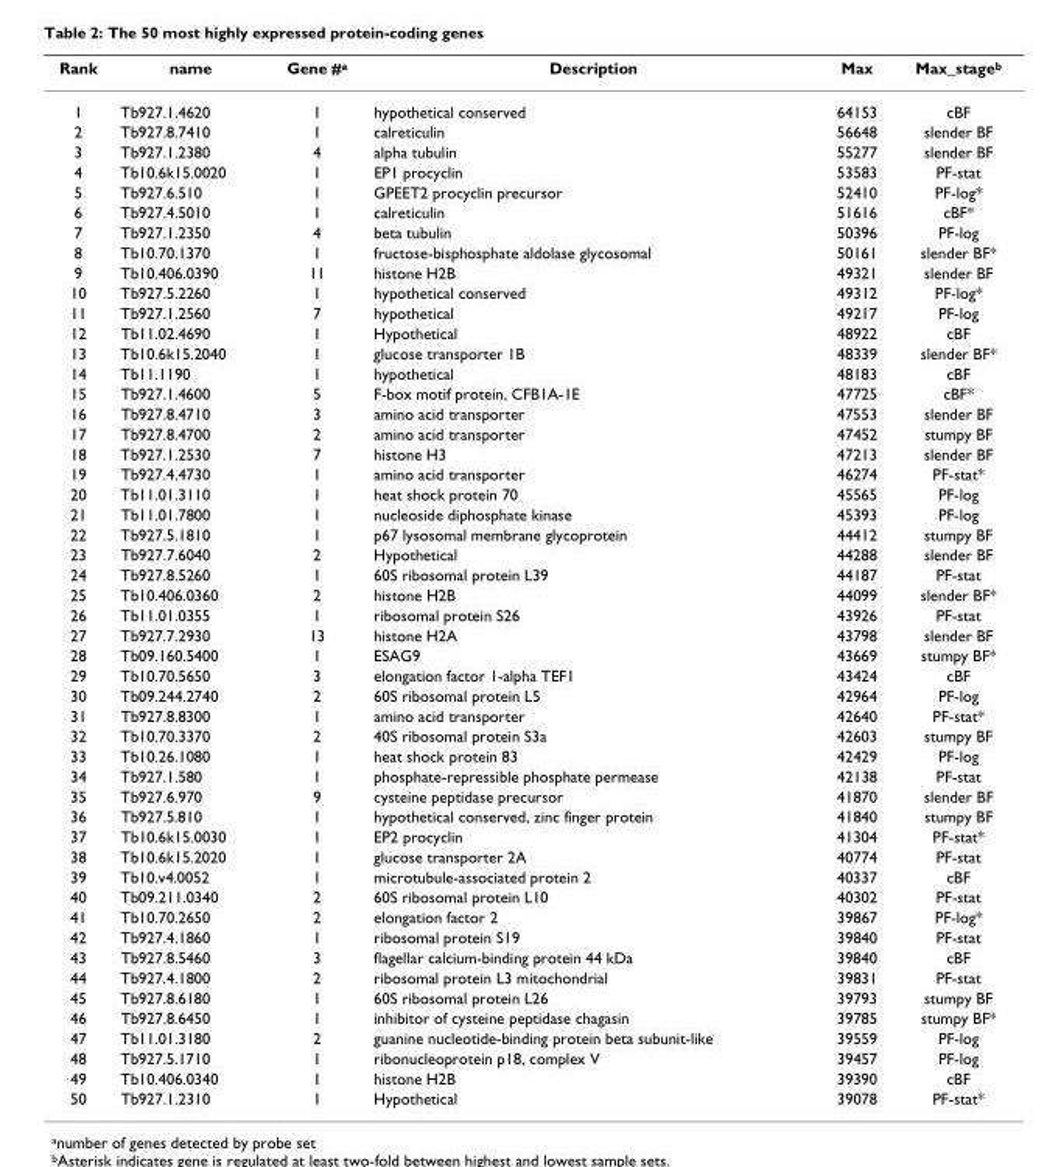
<table><thead><tr><td>Rank</td><td>name</td><td>Gene #<sup>a</sup></td><td>Description</td><td>Max</td><td>Max_stage<sup>b</sup></td></tr></thead><tbody><tr><td>1</td><td>Tb927.1.4620</td><td>1</td><td>hypothetical conserved</td><td>64153</td><td>cBF</td></tr><tr><td>2</td><td>Tb927.8.7410</td><td>1</td><td>calreticulin</td><td>56648</td><td>slender BF</td></tr><tr><td>3</td><td>Tb927.1.2380</td><td>4</td><td>alpha tubulin</td><td>55277</td><td>slender BF</td></tr><tr><td>4</td><td>Tb10.6k15.0020</td><td>1</td><td>EP1 procyclin</td><td>53583</td><td>PF-stat</td></tr><tr><td>5</td><td>Tb927.6.510</td><td>1</td><td>GPEET2 procyclin precursor</td><td>52410</td><td>PF-log*</td></tr><tr><td>6</td><td>Tb927.4.5010</td><td>1</td><td>calreticulin</td><td>51616</td><td>cBF*</td></tr><tr><td>7</td><td>Tb927.1.2350</td><td>4</td><td>beta tubulin</td><td>50396</td><td>PF-log</td></tr><tr><td>8</td><td>Tb10.70.1370</td><td>1</td><td>fructose-bisphosphate aldolase glycosomal</td><td>50161</td><td>slender BF*</td></tr><tr><td>9</td><td>Tb10.406.0390</td><td>11</td><td>histone H2B</td><td>49321</td><td>slender BF</td></tr><tr><td>10</td><td>Tb927.5.2260</td><td>1</td><td>hypothetical conserved</td><td>49312</td><td>PF-log*</td></tr><tr><td>11</td><td>Tb927.1.2560</td><td>7</td><td>hypothetical</td><td>49217</td><td>PF-log</td></tr><tr><td>12</td><td>Tb11.02.4690</td><td>1</td><td>Hypothetical</td><td>48922</td><td>cBF</td></tr><tr><td>13</td><td>Tb10.6k15.2040</td><td>1</td><td>glucose transporter 1B</td><td>48339</td><td>slender BF*</td></tr><tr><td>14</td><td>Tb11.1190</td><td>1</td><td>hypothetical</td><td>48183</td><td>cBF</td></tr><tr><td>15</td><td>Tb927.1.4600</td><td>5</td><td>F-box motif protein, CFB1A-1E</td><td>47725</td><td>cBF*</td></tr><tr><td>16</td><td>Tb927.8.4710</td><td>3</td><td>amino acid transporter</td><td>47553</td><td>slender BF</td></tr><tr><td>17</td><td>Tb927.8.4700</td><td>2</td><td>amino acid transporter</td><td>47452</td><td>stumpy BF</td></tr><tr><td>18</td><td>Tb927.1.2530</td><td>7</td><td>histone H3</td><td>47213</td><td>slender BF</td></tr><tr><td>19</td><td>Tb927.4.4730</td><td>1</td><td>amino acid transporter</td><td>46274</td><td>PF-stat*</td></tr><tr><td>20</td><td>Tb11.01.3110</td><td>1</td><td>heat shock protein 70</td><td>45565</td><td>PF-log</td></tr><tr><td>21</td><td>Tb11.01.7800</td><td>1</td><td>nucleoside diphosphate kinase</td><td>45393</td><td>PF-log</td></tr><tr><td>22</td><td>Tb927.5.1810</td><td>1</td><td>p67 lysosomal membrane glycoprotein</td><td>44412</td><td>stumpy BF</td></tr><tr><td>23</td><td>Tb927.7.6040</td><td>2</td><td>Hypothetical</td><td>44288</td><td>slender BF</td></tr><tr><td>24</td><td>Tb927.8.5260</td><td>1</td><td>60S ribosomal protein L39</td><td>44187</td><td>PF-stat</td></tr><tr><td>25</td><td>Tb10.406.0360</td><td>2</td><td>histone H2B</td><td>44099</td><td>slender BF*</td></tr><tr><td>26</td><td>Tb11.01.0355</td><td>1</td><td>ribosomal protein S26</td><td>43926</td><td>PF-stat</td></tr><tr><td>27</td><td>Tb927.7.2930</td><td>13</td><td>histone H2A</td><td>43798</td><td>slender BF</td></tr><tr><td>28</td><td>Tb09.160.5400</td><td>1</td><td>ESAG9</td><td>43669</td><td>stumpy BF*</td></tr><tr><td>29</td><td>Tb10.70.5650</td><td>3</td><td>elongation factor 1-alpha TEF1</td><td>43424</td><td>cBF</td></tr><tr><td>30</td><td>Tb09.244.2740</td><td>2</td><td>60S ribosomal protein L5</td><td>42964</td><td>PF-log</td></tr><tr><td>31</td><td>Tb927.8.8300</td><td>1</td><td>amino acid transporter</td><td>42640</td><td>PF-stat*</td></tr><tr><td>32</td><td>Tb10.70.3370</td><td>2</td><td>40S ribosomal protein S3a</td><td>42603</td><td>stumpy BF</td></tr><tr><td>33</td><td>Tb10.26.1080</td><td>1</td><td>heat shock protein 83</td><td>42429</td><td>PF-log</td></tr><tr><td>34</td><td>Tb927.1.580</td><td>1</td><td>phosphate-repressible phosphate permease</td><td>42138</td><td>PF-stat</td></tr><tr><td>35</td><td>Tb927.6.970</td><td>9</td><td>cysteine peptidase precursor</td><td>41870</td><td>slender BF</td></tr><tr><td>36</td><td>Tb927.5.810</td><td>1</td><td>hypothetical conserved, zinc finger protein</td><td>41840</td><td>stumpy BF</td></tr><tr><td>37</td><td>Tb10.6k15.0030</td><td>1</td><td>EP2 procyclin</td><td>41304</td><td>PF-stat*</td></tr><tr><td>38</td><td>Tb10.6k15.2020</td><td>1</td><td>glucose transporter 2A</td><td>40774</td><td>PF-stat</td></tr><tr><td>39</td><td>Tb10.v4.0052</td><td>1</td><td>microtubule-associated protein 2</td><td>40337</td><td>cBF</td></tr><tr><td>40</td><td>Tb09.211.0340</td><td>2</td><td>60S ribosomal protein L10</td><td>40302</td><td>PF-stat</td></tr><tr><td>41</td><td>Tb10.70.2650</td><td>2</td><td>elongation factor 2</td><td>39867</td><td>PF-log*</td></tr><tr><td>42</td><td>Tb927.4.1860</td><td>1</td><td>ribosomal protein S19</td><td>39840</td><td>PF-stat</td></tr><tr><td>43</td><td>Tb927.8.5460</td><td>3</td><td>flagellar calcium-binding protein 44 kDa</td><td>39840</td><td>cBF</td></tr><tr><td>44</td><td>Tb927.4.1800</td><td>2</td><td>ribosomal protein L3 mitochondrial</td><td>39831</td><td>PF-stat</td></tr><tr><td>45</td><td>Tb927.8.6180</td><td>1</td><td>60S ribosomal protein L26</td><td>39793</td><td>stumpy BF</td></tr><tr><td>46</td><td>Tb927.8.6450</td><td>1</td><td>inhibitor of cysteine peptidase chagasin</td><td>39785</td><td>stumpy BF*</td></tr><tr><td>47</td><td>Tb11.01.3180</td><td>2</td><td>guanine nucleotide-binding protein beta subunit-like</td><td>39559</td><td>PF-log</td></tr><tr><td>48</td><td>Tb927.5.1710</td><td>1</td><td>ribonucleoprotein p18, complex V</td><td>39457</td><td>PF-log</td></tr><tr><td>49</td><td>Tb10.406.0340</td><td>1</td><td>histone H2B</td><td>39390</td><td>cBF</td></tr><tr><td>50</td><td>Tb927.1.2310</td><td>1</td><td>Hypothetical</td><td>39078</td><td>PF-stat*</td></tr></tbody></table>